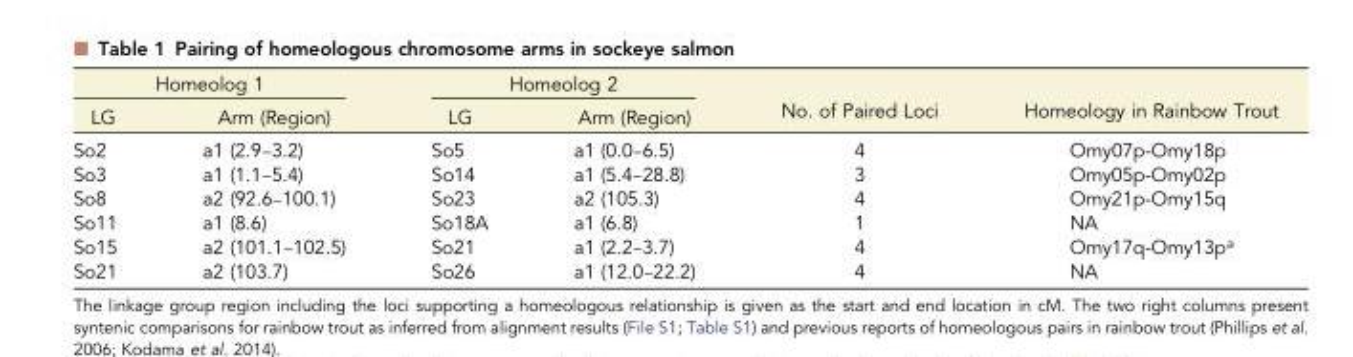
<table><thead><tr><td colspan="2">Homeolog 1</td><td colspan="2">Homeolog 2</td><td rowspan="2">No. of Paired Loci</td><td rowspan="2">Homeology in Rainbow Trout</td></tr><tr><td>LG</td><td>Arm (Region)</td><td>LG</td><td>Arm (Region)</td></tr></thead><tbody><tr><td>So2</td><td>a1 (2.9–3.2)</td><td>So5</td><td>a1 (0.0–6.5)</td><td>4</td><td>Omy07p-Omy18p</td></tr><tr><td>So3</td><td>a1 (1.1–5.4)</td><td>So14</td><td>a1 (5.4–28.8)</td><td>3</td><td>Omy05p-Omy02p</td></tr><tr><td>So8</td><td>a2 (92.6–100.1)</td><td>So23</td><td>a2 (105.3)</td><td>4</td><td>Omy21p-Omy15q</td></tr><tr><td>So11</td><td>a1 (8.6)</td><td>So18A</td><td>a1 (6.8)</td><td>1</td><td>NA</td></tr><tr><td>So15</td><td>a2 (101.1–102.5)</td><td>So21</td><td>a1 (2.2–3.7)</td><td>4</td><td>Omy17q-Omy13p<sup>a</sup></td></tr><tr><td>So21</td><td>a2 (103.7)</td><td>So26</td><td>a1 (12.0–22.2)</td><td>4</td><td>NA</td></tr></tbody></table>